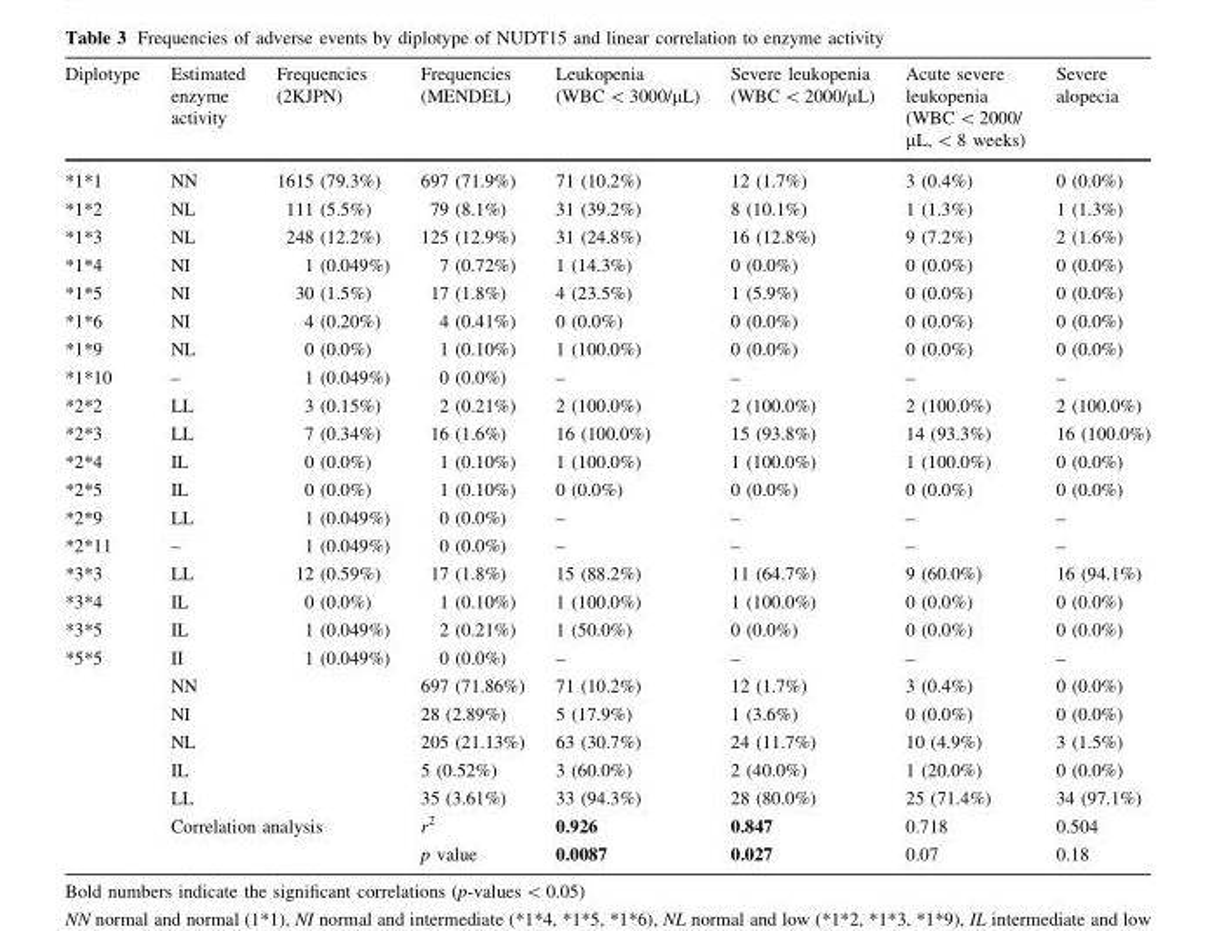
<table><thead><tr><td>Diplotype</td><td>Estimated enzyme activity</td><td>Frequencies (2KJPN)</td><td>Frequencies (MENDEL)</td><td>Leukopenia (WBC &lt; 3000/μL)</td><td>Severe leukopenia (WBC &lt; 2000/μL)</td><td>Acute severe leukopenia (WBC &lt; 2000/ μL, &lt; 8 weeks)</td><td>Severe alopecia</td></tr></thead><tbody><tr><td>*1*1</td><td>NN</td><td>1615 (79.3%)</td><td>697 (71.9%)</td><td>71 (10.2%)</td><td>12 (1.7%)</td><td>3 (0.4%)</td><td>0 (0.0%)</td></tr><tr><td>*1*2</td><td>NL</td><td>111 (5.5%)</td><td>79 (8.1%)</td><td>31 (39.2%)</td><td>8 (10.1%)</td><td>1 (1.3%)</td><td>1 (1.3%)</td></tr><tr><td>*1*3</td><td>NL</td><td>248 (12.2%)</td><td>125 (12.9%)</td><td>31 (24.8%)</td><td>16 (12.8%)</td><td>9 (7.2%)</td><td>2 (1.6%)</td></tr><tr><td>*1*4</td><td>NI</td><td>1 (0.049%)</td><td>7 (0.72%)</td><td>1 (14.3%)</td><td>0 (0.0%)</td><td>0 (0.0%)</td><td>0 (0.0%)</td></tr><tr><td>*1*5</td><td>NI</td><td>30 (1.5%)</td><td>17 (1.8%)</td><td>4 (23.5%)</td><td>1 (5.9%)</td><td>0 (0.0%)</td><td>0 (0.0%)</td></tr><tr><td>*1*6</td><td>NI</td><td>4 (0.20%)</td><td>4 (0.41%)</td><td>0 (0.0%)</td><td>0 (0.0%)</td><td>0 (0.0%)</td><td>0 (0.0%)</td></tr><tr><td>*1*9</td><td>NL</td><td>0 (0.0%)</td><td>1 (0.10%)</td><td>1 (100.0%)</td><td>0 (0.0%)</td><td>0 (0.0%)</td><td>0 (0.0%)</td></tr><tr><td>*1*10</td><td>–</td><td>1 (0.049%)</td><td>0 (0.0%)</td><td>–</td><td>–</td><td>–</td><td>–</td></tr><tr><td>*2*2</td><td>LL</td><td>3 (0.15%)</td><td>2 (0.21%)</td><td>2 (100.0%)</td><td>2 (100.0%)</td><td>2 (100.0%)</td><td>2 (100.0%)</td></tr><tr><td>*2*3</td><td>LL</td><td>7 (0.34%)</td><td>16 (1.6%)</td><td>16 (100.0%)</td><td>15 (93.8%)</td><td>14 (93.3%)</td><td>16 (100.0%)</td></tr><tr><td>*2*4</td><td>IL</td><td>0 (0.0%)</td><td>1 (0.10%)</td><td>1 (100.0%)</td><td>1 (100.0%)</td><td>1 (100.0%)</td><td>0 (0.0%)</td></tr><tr><td>*2*5</td><td>IL</td><td>0 (0.0%)</td><td>1 (0.10%)</td><td>0 (0.0%)</td><td>0 (0.0%)</td><td>0 (0.0%)</td><td>0 (0.0%)</td></tr><tr><td>*2*9</td><td>LL</td><td>1 (0.049%)</td><td>0 (0.0%)</td><td>–</td><td>–</td><td>–</td><td>–</td></tr><tr><td>*2*11</td><td>–</td><td>1 (0.049%)</td><td>0 (0.0%)</td><td>–</td><td>–</td><td>–</td><td>–</td></tr><tr><td>*3*3</td><td>LL</td><td>12 (0.59%)</td><td>17 (1.8%)</td><td>15 (88.2%)</td><td>11 (64.7%)</td><td>9 (60.0%)</td><td>16 (94.1%)</td></tr><tr><td>*3*4</td><td>IL</td><td>0 (0.0%)</td><td>1 (0.10%)</td><td>1 (100.0%)</td><td>1 (100.0%)</td><td>0 (0.0%)</td><td>0 (0.0%)</td></tr><tr><td>*3*5</td><td>IL</td><td>1 (0.049%)</td><td>2 (0.21%)</td><td>1 (50.0%)</td><td>0 (0.0%)</td><td>0 (0.0%)</td><td>0 (0.0%)</td></tr><tr><td rowspan="8">*5*5</td><td>II</td><td>1 (0.049%)</td><td>0 (0.0%)</td><td>–</td><td>–</td><td>–</td><td>–</td></tr><tr><td>NN</td><td></td><td>697 (71.86%)</td><td>71 (10.2%)</td><td>12 (1.7%)</td><td>3 (0.4%)</td><td>0 (0.0%)</td></tr><tr><td>NI</td><td></td><td>28 (2.89%)</td><td>5 (17.9%)</td><td>1 (3.6%)</td><td>0 (0.0%)</td><td>0 (0.0%)</td></tr><tr><td>NL</td><td></td><td>205 (21.13%)</td><td>63 (30.7%)</td><td>24 (11.7%)</td><td>10 (4.9%)</td><td>3 (1.5%)</td></tr><tr><td>IL</td><td></td><td>5 (0.52%)</td><td>3 (60.0%)</td><td>2 (40.0%)</td><td>1 (20.0%)</td><td>0 (0.0%)</td></tr><tr><td>LL</td><td></td><td>35 (3.61%)</td><td>33 (94.3%)</td><td>28 (80.0%)</td><td>25 (71.4%)</td><td>34 (97.1%)</td></tr><tr><td rowspan="2" colspan="2">Correlation analysis</td><td>r<sup>2</sup></td><td>0.926</td><td>0.847</td><td>0.718</td><td>0.504</td></tr><tr><td>p value</td><td>0.0087</td><td>0.027</td><td>0.07</td><td>0.18</td></tr></tbody></table>